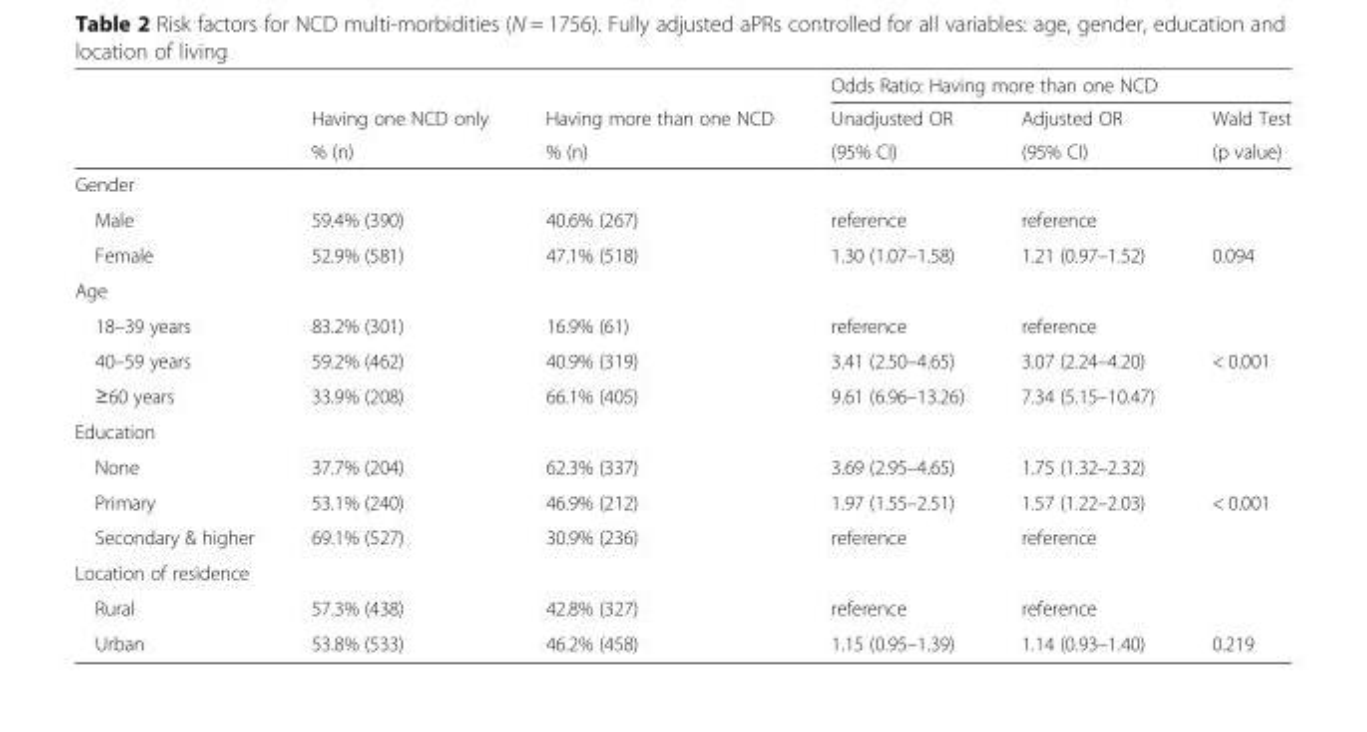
<table><thead><tr><td rowspan="3"></td><td rowspan="3">Having one NCD only % (n)</td><td rowspan="3">Having more than one NCD % (n)</td><td colspan="3">Odds Ratio: Having more than one NCD</td></tr><tr><td rowspan="2">Unadjusted OR (95% CI)</td><td rowspan="2">Adjusted OR (95% CI)</td><td rowspan="2">Wald Test (p value)</td></tr><tr></tr></thead><tbody><tr><td colspan="6">Gender</td></tr><tr><td>Male</td><td>59.4% (390)</td><td>40.6% (267)</td><td>reference</td><td>reference</td><td></td></tr><tr><td>Female</td><td>52.9% (581)</td><td>47.1% (518)</td><td>1.30 (1.07–1.58)</td><td>1.21 (0.97–1.52)</td><td>0.094</td></tr><tr><td colspan="6">Age</td></tr><tr><td>18–39 years</td><td>83.2% (301)</td><td>16.9% (61)</td><td>reference</td><td>reference</td><td></td></tr><tr><td>40–59 years</td><td>59.2% (462)</td><td>40.9% (319)</td><td>3.41 (2.50–4.65)</td><td>3.07 (2.24–4.20)</td><td>&lt; 0.001</td></tr><tr><td>≥60 years</td><td>33.9% (208)</td><td>66.1% (405)</td><td>9.61 (6.96–13.26)</td><td>7.34 (5.15–10.47)</td><td></td></tr><tr><td colspan="6">Education</td></tr><tr><td>None</td><td>37.7% (204)</td><td>62.3% (337)</td><td>3.69 (2.95–4.65)</td><td>1.75 (1.32–2.32)</td><td></td></tr><tr><td>Primary</td><td>53.1% (240)</td><td>46.9% (212)</td><td>1.97 (1.55–2.51)</td><td>1.57 (1.22–2.03)</td><td>&lt; 0.001</td></tr><tr><td>Secondary &amp; higher</td><td>69.1% (527)</td><td>30.9% (236)</td><td>reference</td><td>reference</td><td></td></tr><tr><td colspan="6">Location of residence</td></tr><tr><td>Rural</td><td>57.3% (438)</td><td>42.8% (327)</td><td>reference</td><td>reference</td><td></td></tr><tr><td>Urban</td><td>53.8% (533)</td><td>46.2% (458)</td><td>1.15 (0.95–1.39)</td><td>1.14 (0.93–1.40)</td><td>0.219</td></tr></tbody></table>